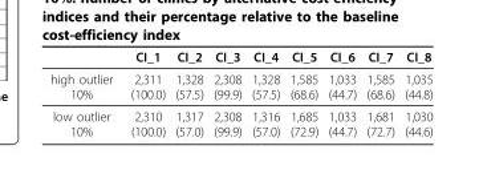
<table><thead><tr><td></td><td>CI_1</td><td>CI_2</td><td>CI_3</td><td>CI_4</td><td>CI_5</td><td>CI_6</td><td>CI_7</td><td>CI_8</td></tr></thead><tbody><tr><td>high outlier 10%</td><td>2,311 (100.0)</td><td>1,328 (57.5)</td><td>2,308 (99.9)</td><td>1,328 (57.5)</td><td>1,585 (68.6)</td><td>1,033 (44.7)</td><td>1,585 (68.6)</td><td>1,035 (44.8)</td></tr><tr><td>low outlier 10%</td><td>2,310 (100.0)</td><td>1,317 (57.0)</td><td>2,308 (99.9)</td><td>1,316 (57.0)</td><td>1,685 (72.9)</td><td>1,033 (44.7)</td><td>1,681 (72.7)</td><td>1,030 (44.6)</td></tr></tbody></table>